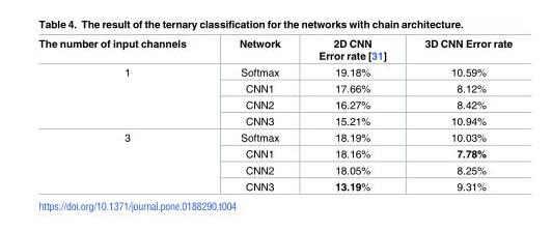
<table><thead><tr><td>The number of input channels</td><td>Network</td><td>2D CNN Error rate [31]</td><td>3D CNN Error rate</td></tr></thead><tbody><tr><td rowspan="4">1</td><td>Softmax</td><td>19.18%</td><td>10.59%</td></tr><tr><td>CNN1</td><td>17.66%</td><td>8.12%</td></tr><tr><td>CNN2</td><td>16.27%</td><td>8.42%</td></tr><tr><td>CNN3</td><td>15.21%</td><td>10.94%</td></tr><tr><td rowspan="4">3</td><td>Softmax</td><td>18.19%</td><td>10.03%</td></tr><tr><td>CNN1</td><td>18.16%</td><td>7.78%</td></tr><tr><td>CNN2</td><td>18.05%</td><td>8.25%</td></tr><tr><td>CNN3</td><td>13.19%</td><td>9.31%</td></tr></tbody></table>